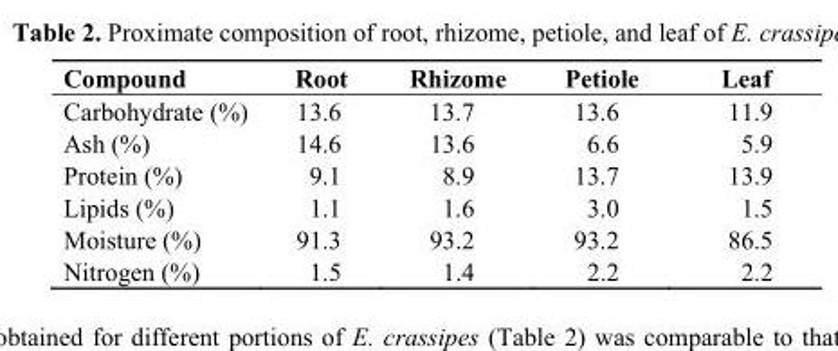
<table><thead><tr><td>Compound</td><td>Root</td><td>Rhizome</td><td>Petiole</td><td>Leaf</td></tr></thead><tbody><tr><td>Carbohydrate (%)</td><td>13.6</td><td>13.7</td><td>13.6</td><td>11.9</td></tr><tr><td>Ash (%)</td><td>14.6</td><td>13.6</td><td>6.6</td><td>5.9</td></tr><tr><td>Protein (%)</td><td>9.1</td><td>8.9</td><td>13.7</td><td>13.9</td></tr><tr><td>Lipids (%)</td><td>1.1</td><td>1.6</td><td>3.0</td><td>1.5</td></tr><tr><td>Moisture (%)</td><td>91.3</td><td>93.2</td><td>93.2</td><td>86.5</td></tr><tr><td>Nitrogen (%)</td><td>1.5</td><td>1.4</td><td>2.2</td><td>2.2</td></tr></tbody></table>